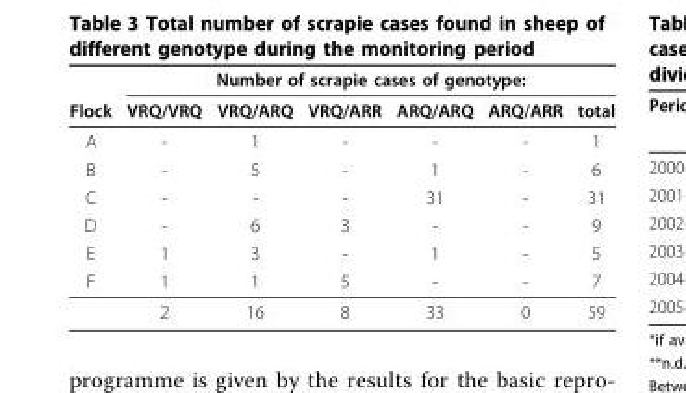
<table><thead><tr><td rowspan="2">Flock</td><td colspan="6">Number of scrapie cases of genotype:</td></tr><tr><td>VRQ/VRQ</td><td>VRQ/ARQ</td><td>VRQ/ARR</td><td>ARQ/ARQ</td><td>ARQ/ARR</td><td>total</td></tr></thead><tbody><tr><td>A</td><td>-</td><td>1</td><td>-</td><td>-</td><td>-</td><td>1</td></tr><tr><td>B</td><td>-</td><td>5</td><td>-</td><td>1</td><td>-</td><td>6</td></tr><tr><td>C</td><td>-</td><td>-</td><td>-</td><td>31</td><td>-</td><td>31</td></tr><tr><td>D</td><td>-</td><td>6</td><td>3</td><td>-</td><td>-</td><td>9</td></tr><tr><td>E</td><td>1</td><td>3</td><td>-</td><td>1</td><td>-</td><td>5</td></tr><tr><td rowspan="2">F</td><td>1</td><td>1</td><td>5</td><td>-</td><td>-</td><td>7</td></tr><tr><td>2</td><td>16</td><td>8</td><td>33</td><td>0</td><td>59</td></tr></tbody></table>